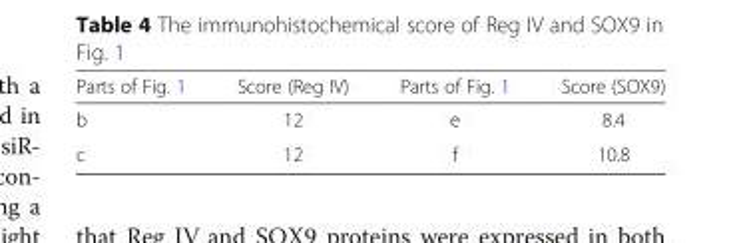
<table><thead><tr><td>Parts of Fig. 1</td><td>Score (Reg IV)</td><td>Parts of Fig. 1</td><td>Score (SOX9)</td></tr></thead><tbody><tr><td>b</td><td>12</td><td>e</td><td>8.4</td></tr><tr><td>c</td><td>12</td><td>f</td><td>10.8</td></tr></tbody></table>